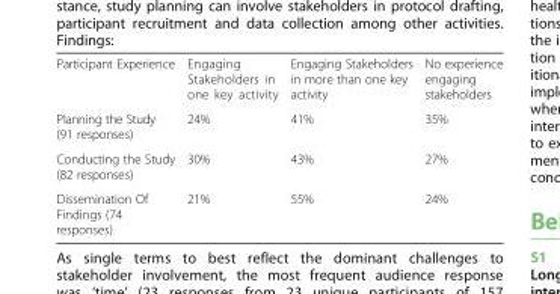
<table><tbody><tr><td>Participant Experience</td><td>Engaging Stakeholders in one key activity</td><td>Engaging Stakeholders in more than one key activity</td><td>No experience engaging stakeholders</td></tr><tr><td>Planning the Study (91 responses)</td><td>24%</td><td>41%</td><td>35%</td></tr><tr><td>Conducting the Study (82 responses)</td><td>30%</td><td>43%</td><td>27%</td></tr><tr><td>Dissemination Of Findings (74 responses)</td><td>21%</td><td>55%</td><td>24%</td></tr></tbody></table>